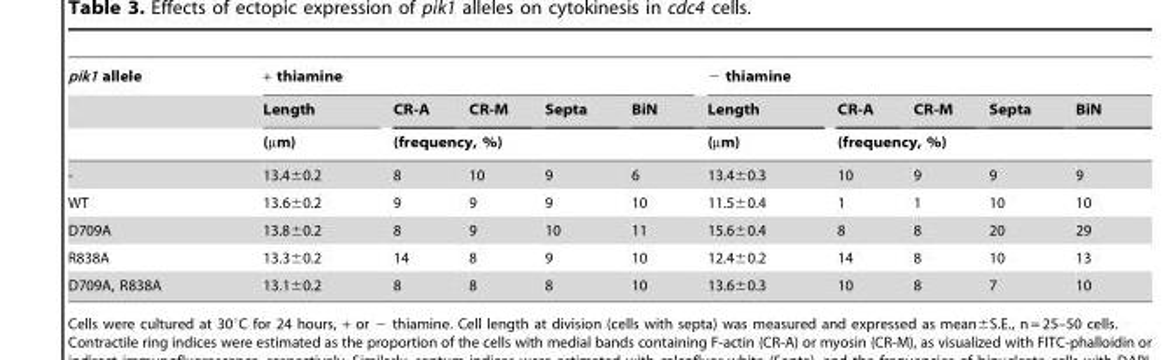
<table><thead><tr><td rowspan="3">pik1 allele</td><td colspan="5">+ thiamine</td><td colspan="5">− thiamine</td></tr><tr><td rowspan="2">Length (µm)</td><td>CR-A</td><td>CR-M</td><td>Septa</td><td>BiN</td><td rowspan="2">Length (µm)</td><td>CR-A</td><td>CR-M</td><td>Septa</td><td>BiN</td></tr><tr><td colspan="4">(frequency, %)</td><td colspan="4">(frequency, %)</td></tr></thead><tbody><tr><td>-</td><td>13.4±0.2</td><td>8</td><td>10</td><td>9</td><td>6</td><td>13.4±0.3</td><td>10</td><td>9</td><td>9</td><td>9</td></tr><tr><td>WT</td><td>13.6±0.2</td><td>9</td><td>9</td><td>9</td><td>10</td><td>11.5±0.4</td><td>1</td><td>1</td><td>10</td><td>10</td></tr><tr><td>D709A</td><td>13.8±0.2</td><td>8</td><td>9</td><td>10</td><td>11</td><td>15.6±0.4</td><td>8</td><td>8</td><td>20</td><td>29</td></tr><tr><td>R838A</td><td>13.3±0.2</td><td>14</td><td>8</td><td>9</td><td>10</td><td>12.4±0.2</td><td>14</td><td>8</td><td>10</td><td>13</td></tr><tr><td>D709A, R838A</td><td>13.1±0.2</td><td>8</td><td>8</td><td>8</td><td>10</td><td>13.6±0.3</td><td>10</td><td>8</td><td>7</td><td>10</td></tr></tbody></table>